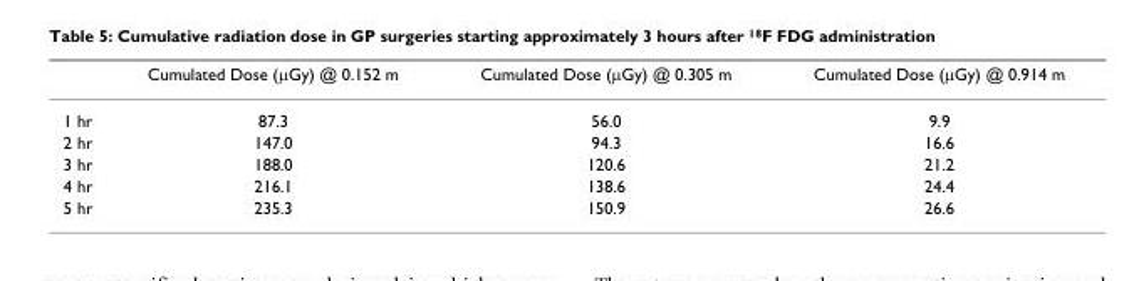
<table><thead><tr><td></td><td>Cumulated Dose (μGy) @ 0.152 m</td><td>Cumulated Dose (μGy) @ 0.305 m</td><td>Cumulated Dose (μGy) @ 0.914 m</td></tr></thead><tbody><tr><td>1 hr</td><td>87.3</td><td>56.0</td><td>9.9</td></tr><tr><td>2 hr</td><td>147.0</td><td>94.3</td><td>16.6</td></tr><tr><td>3 hr</td><td>188.0</td><td>120.6</td><td>21.2</td></tr><tr><td>4 hr</td><td>216.1</td><td>138.6</td><td>24.4</td></tr><tr><td>5 hr</td><td>235.3</td><td>150.9</td><td>26.6</td></tr></tbody></table>